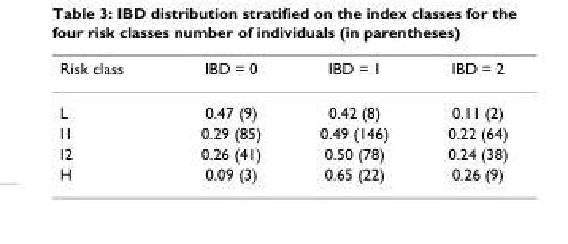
<table><thead><tr><td>Risk class</td><td>IBD = 0</td><td>IBD = 1</td><td>IBD = 2</td></tr></thead><tbody><tr><td>L</td><td>0.47 (9)</td><td>0.42 (8)</td><td>0.11 (2)</td></tr><tr><td>I1</td><td>0.29 (85)</td><td>0.49 (146)</td><td>0.22 (64)</td></tr><tr><td>I2</td><td>0.26 (41)</td><td>0.50 (78)</td><td>0.24 (38)</td></tr><tr><td>H</td><td>0.09 (3)</td><td>0.65 (22)</td><td>0.26 (9)</td></tr></tbody></table>